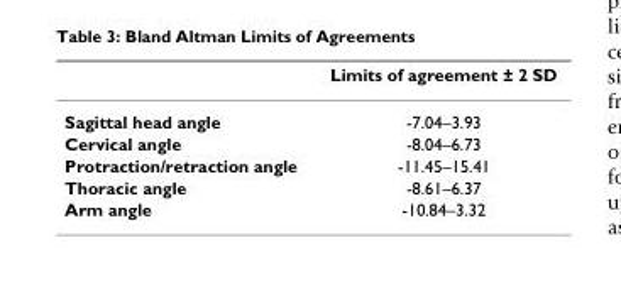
<table><thead><tr><td></td><td>Limits of agreement ± 2 SD</td></tr></thead><tbody><tr><td>Sagittal head angle</td><td>-7.04–3.93</td></tr><tr><td>Cervical angle</td><td>-8.04–6.73</td></tr><tr><td>Protraction/retraction angle</td><td>-11.45–15.41</td></tr><tr><td>Thoracic angle</td><td>-8.61–6.37</td></tr><tr><td>Arm angle</td><td>-10.84–3.32</td></tr></tbody></table>